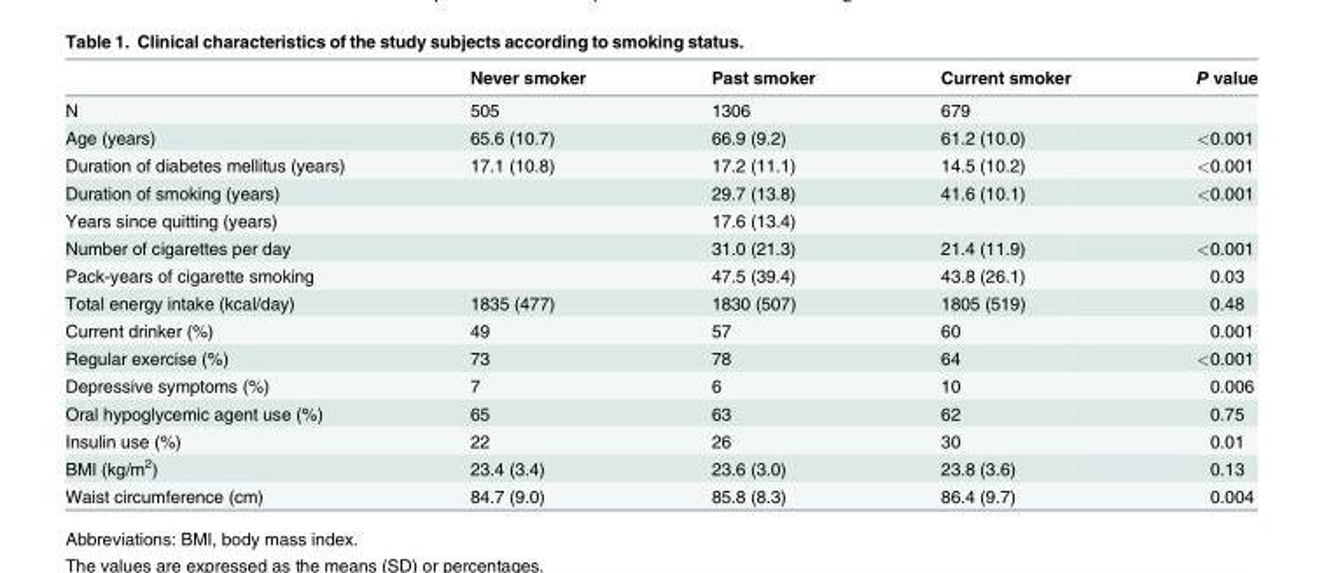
<table><thead><tr><td></td><td>Never smoker</td><td>Past smoker</td><td>Current smoker</td><td>P value</td></tr></thead><tbody><tr><td>N</td><td>505</td><td>1306</td><td>679</td><td></td></tr><tr><td>Age (years)</td><td>65.6 (10.7)</td><td>66.9 (9.2)</td><td>61.2 (10.0)</td><td>&lt;0.001</td></tr><tr><td>Duration of diabetes mellitus (years)</td><td>17.1 (10.8)</td><td>17.2 (11.1)</td><td>14.5 (10.2)</td><td>&lt;0.001</td></tr><tr><td>Duration of smoking (years)</td><td></td><td>29.7 (13.8)</td><td>41.6 (10.1)</td><td>&lt;0.001</td></tr><tr><td>Years since quitting (years)</td><td></td><td>17.6 (13.4)</td><td></td><td></td></tr><tr><td>Number of cigarettes per day</td><td></td><td>31.0 (21.3)</td><td>21.4 (11.9)</td><td>&lt;0.001</td></tr><tr><td>Pack-years of cigarette smoking</td><td></td><td>47.5 (39.4)</td><td>43.8 (26.1)</td><td>0.03</td></tr><tr><td>Total energy intake (kcal/day)</td><td>1835 (477)</td><td>1830 (507)</td><td>1805 (519)</td><td>0.48</td></tr><tr><td>Current drinker (%)</td><td>49</td><td>57</td><td>60</td><td>0.001</td></tr><tr><td>Regular exercise (%)</td><td>73</td><td>78</td><td>64</td><td>&lt;0.001</td></tr><tr><td>Depressive symptoms (%)</td><td>7</td><td>6</td><td>10</td><td>0.006</td></tr><tr><td>Oral hypoglycemic agent use (%)</td><td>65</td><td>63</td><td>62</td><td>0.75</td></tr><tr><td>Insulin use (%)</td><td>22</td><td>26</td><td>30</td><td>0.01</td></tr><tr><td>BMI (kg/m<sup>2</sup>)</td><td>23.4 (3.4)</td><td>23.6 (3.0)</td><td>23.8 (3.6)</td><td>0.13</td></tr><tr><td>Waist circumference (cm)</td><td>84.7 (9.0)</td><td>85.8 (8.3)</td><td>86.4 (9.7)</td><td>0.004</td></tr></tbody></table>